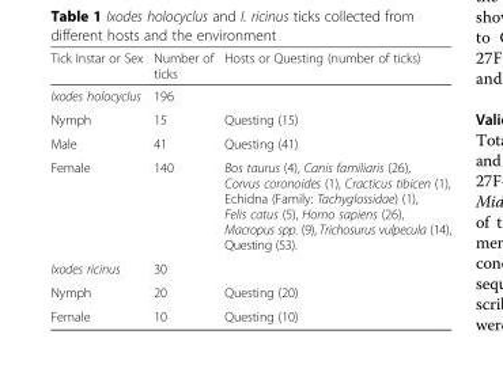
<table><thead><tr><td>Tick Instar or Sex</td><td>Number of ticks</td><td>Hosts or Questing (number of ticks)</td></tr></thead><tbody><tr><td>Ixodes holocyclus</td><td>196</td><td></td></tr><tr><td>Nymph</td><td>15</td><td>Questing (15)</td></tr><tr><td>Male</td><td>41</td><td>Questing (41)</td></tr><tr><td>Female</td><td>140</td><td>Bos taurus (4), Canis familiaris (26), Corvus coronoides (1), Cracticus tibicen (1), Echidna (Family: Tachyglossidae) (1), Felis catus (5), Homo sapiens (26), Macropus spp. (9), Trichosurus vulpecula (14), Questing (53).</td></tr><tr><td>Ixodes ricinus</td><td>30</td><td></td></tr><tr><td>Nymph</td><td>20</td><td>Questing (20)</td></tr><tr><td>Female</td><td>10</td><td>Questing (10)</td></tr></tbody></table>